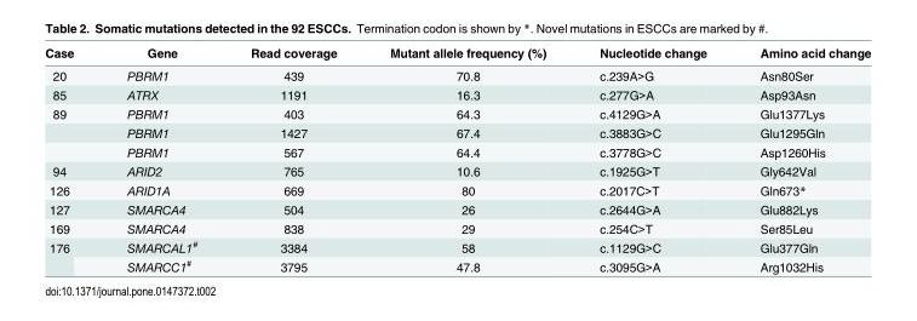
<table><thead><tr><td>Case</td><td>Gene</td><td>Read coverage</td><td>Mutant allele frequency (%)</td><td>Nucleotide change</td><td>Amino acid change</td></tr></thead><tbody><tr><td>20</td><td>PBRM1</td><td>439</td><td>70.8</td><td>c.239A&gt;G</td><td>Asn80Ser</td></tr><tr><td>85</td><td>ATRX</td><td>1191</td><td>16.3</td><td>c.277G&gt;A</td><td>Asp93Asn</td></tr><tr><td rowspan="3">89</td><td>PBRM1</td><td>403</td><td>64.3</td><td>c.4129G&gt;A</td><td>Glu1377Lys</td></tr><tr><td>PBRM1</td><td>1427</td><td>67.4</td><td>c.3883G&gt;C</td><td>Glu1295Gln</td></tr><tr><td>PBRM1</td><td>567</td><td>64.4</td><td>c.3778G&gt;C</td><td>Asp1260His</td></tr><tr><td>94</td><td>ARID2</td><td>765</td><td>10.6</td><td>c.1925G&gt;T</td><td>Gly642Val</td></tr><tr><td>126</td><td>ARID1A</td><td>669</td><td>80</td><td>c.2017C&gt;T</td><td>Gln673*</td></tr><tr><td>127</td><td>SMARCA4</td><td>504</td><td>26</td><td>c.2644G&gt;A</td><td>Glu882Lys</td></tr><tr><td>169</td><td>SMARCA4</td><td>838</td><td>29</td><td>c.254C&gt;T</td><td>Ser85Leu</td></tr><tr><td rowspan="2">176</td><td>SMARCAL1<sup>#</sup></td><td>3384</td><td>58</td><td>c.1129G&gt;C</td><td>Glu377Gln</td></tr><tr><td>SMARCC1<sup>#</sup></td><td>3795</td><td>47.8</td><td>c.3095G&gt;A</td><td>Arg1032His</td></tr></tbody></table>